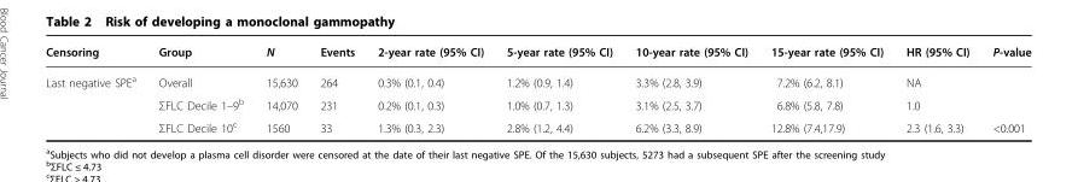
<table><thead><tr><td>Censoring</td><td>Group</td><td>N</td><td>Events</td><td>2-year rate (95% CI)</td><td>5-year rate (95% CI)</td><td>10-year rate (95% CI)</td><td>15-year rate (95% CI)</td><td>HR (95% CI)</td><td>P-value</td></tr></thead><tbody><tr><td rowspan="3">Last negative SPE<sup>a</sup></td><td>Overall</td><td>15,630</td><td>264</td><td>0.3% (0.1, 0.4)</td><td>1.2% (0.9, 1.4)</td><td>3.3% (2.8, 3.9)</td><td>7.2% (6.2, 8.1)</td><td>NA</td><td></td></tr><tr><td>ΣFLC Decile 1–9<sup>b</sup></td><td>14,070</td><td>231</td><td>0.2% (0.1, 0.3)</td><td>1.0% (0.7, 1.3)</td><td>3.1% (2.5, 3.7)</td><td>6.8% (5.8, 7.8)</td><td>1.0</td><td></td></tr><tr><td>ΣFLC Decile 10<sup>c</sup></td><td>1560</td><td>33</td><td>1.3% (0.3, 2.3)</td><td>2.8% (1.2, 4.4)</td><td>6.2% (3.3, 8.9)</td><td>12.8% (7.4,17.9)</td><td>2.3 (1.6, 3.3)</td><td>&lt;0.001</td></tr></tbody></table>